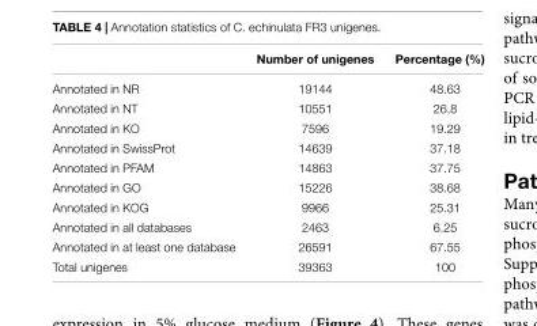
<table><thead><tr><td></td><td>Number of unigenes</td><td>Percentage (%)</td></tr></thead><tbody><tr><td>Annotated in NR</td><td>19144</td><td>48.63</td></tr><tr><td>Annotated in NT</td><td>10551</td><td>26.8</td></tr><tr><td>Annotated in KO</td><td>7596</td><td>19.29</td></tr><tr><td>Annotated in SwissProt</td><td>14639</td><td>37.18</td></tr><tr><td>Annotated in PFAM</td><td>14863</td><td>37.75</td></tr><tr><td>Annotated in GO</td><td>15226</td><td>38.68</td></tr><tr><td>Annotated in KOG</td><td>9966</td><td>25.31</td></tr><tr><td>Annotated in all databases</td><td>2463</td><td>6.25</td></tr><tr><td>Annotated in at least one database</td><td>26591</td><td>67.55</td></tr><tr><td>Total unigenes</td><td>39363</td><td>100</td></tr></tbody></table>